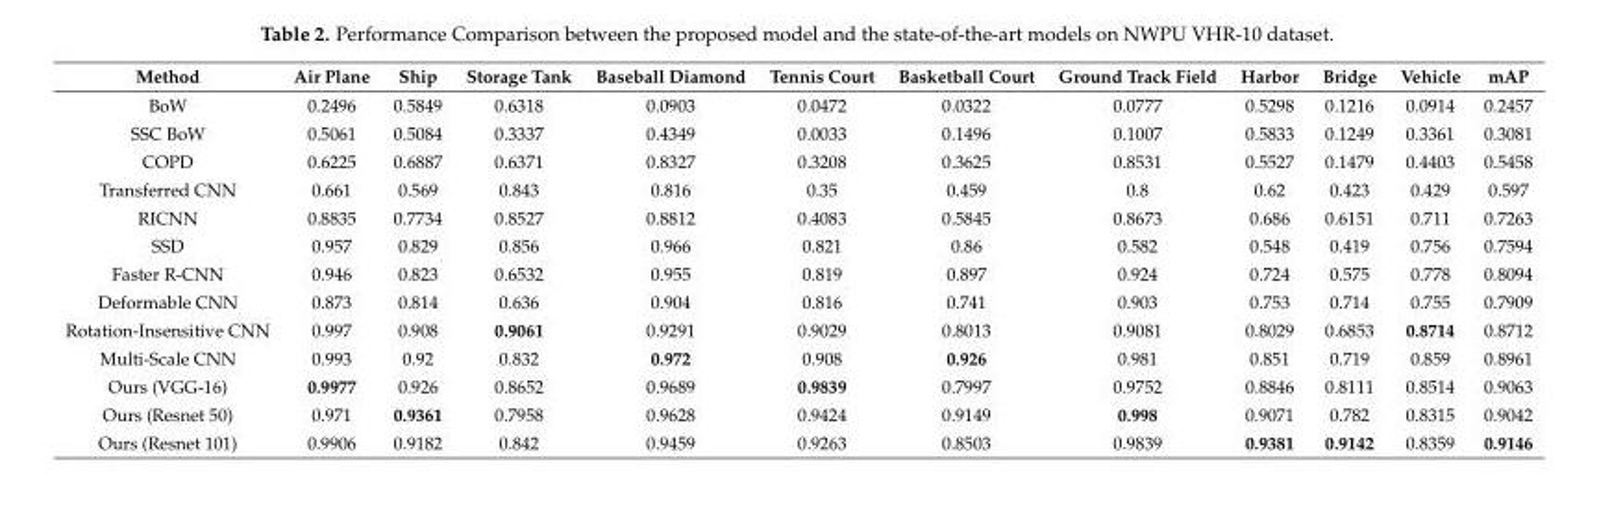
<table><thead><tr><td>Method</td><td>Air Plane</td><td>Ship</td><td>Storage Tank</td><td>Baseball Diamond</td><td>Tennis Court</td><td>Basketball Court</td><td>Ground Track Field</td><td>Harbor</td><td>Bridge</td><td>Vehicle</td><td>mAP</td></tr></thead><tbody><tr><td>BoW</td><td>0.2496</td><td>0.5849</td><td>0.6318</td><td>0.0903</td><td>0.0472</td><td>0.0322</td><td>0.0777</td><td>0.5298</td><td>0.1216</td><td>0.0914</td><td>0.2457</td></tr><tr><td>SSC BoW</td><td>0.5061</td><td>0.5084</td><td>0.3337</td><td>0.4349</td><td>0.0033</td><td>0.1496</td><td>0.1007</td><td>0.5833</td><td>0.1249</td><td>0.3361</td><td>0.3081</td></tr><tr><td>COPD</td><td>0.6225</td><td>0.6887</td><td>0.6371</td><td>0.8327</td><td>0.3208</td><td>0.3625</td><td>0.8531</td><td>0.5527</td><td>0.1479</td><td>0.4403</td><td>0.5458</td></tr><tr><td>Transferred CNN</td><td>0.661</td><td>0.569</td><td>0.843</td><td>0.816</td><td>0.35</td><td>0.459</td><td>0.8</td><td>0.62</td><td>0.423</td><td>0.429</td><td>0.597</td></tr><tr><td>RICNN</td><td>0.8835</td><td>0.7734</td><td>0.8527</td><td>0.8812</td><td>0.4083</td><td>0.5845</td><td>0.8673</td><td>0.686</td><td>0.6151</td><td>0.711</td><td>0.7263</td></tr><tr><td>SSD</td><td>0.957</td><td>0.829</td><td>0.856</td><td>0.966</td><td>0.821</td><td>0.86</td><td>0.582</td><td>0.548</td><td>0.419</td><td>0.756</td><td>0.7594</td></tr><tr><td>Faster R-CNN</td><td>0.946</td><td>0.823</td><td>0.6532</td><td>0.955</td><td>0.819</td><td>0.897</td><td>0.924</td><td>0.724</td><td>0.575</td><td>0.778</td><td>0.8094</td></tr><tr><td>Deformable CNN</td><td>0.873</td><td>0.814</td><td>0.636</td><td>0.904</td><td>0.816</td><td>0.741</td><td>0.903</td><td>0.753</td><td>0.714</td><td>0.755</td><td>0.7909</td></tr><tr><td>Rotation-Insensitive CNN</td><td>0.997</td><td>0.908</td><td>0.9061</td><td>0.9291</td><td>0.9029</td><td>0.8013</td><td>0.9081</td><td>0.8029</td><td>0.6853</td><td>0.8714</td><td>0.8712</td></tr><tr><td>Multi-Scale CNN</td><td>0.993</td><td>0.92</td><td>0.832</td><td>0.972</td><td>0.908</td><td>0.926</td><td>0.981</td><td>0.851</td><td>0.719</td><td>0.859</td><td>0.8961</td></tr><tr><td>Ours (VGG-16)</td><td>0.9977</td><td>0.926</td><td>0.8652</td><td>0.9689</td><td>0.9839</td><td>0.7997</td><td>0.9752</td><td>0.8846</td><td>0.8111</td><td>0.8514</td><td>0.9063</td></tr><tr><td>Ours (Resnet 50)</td><td>0.971</td><td>0.9361</td><td>0.7958</td><td>0.9628</td><td>0.9424</td><td>0.9149</td><td>0.998</td><td>0.9071</td><td>0.782</td><td>0.8315</td><td>0.9042</td></tr><tr><td>Ours (Resnet 101)</td><td>0.9906</td><td>0.9182</td><td>0.842</td><td>0.9459</td><td>0.9263</td><td>0.8503</td><td>0.9839</td><td>0.9381</td><td>0.9142</td><td>0.8359</td><td>0.9146</td></tr></tbody></table>